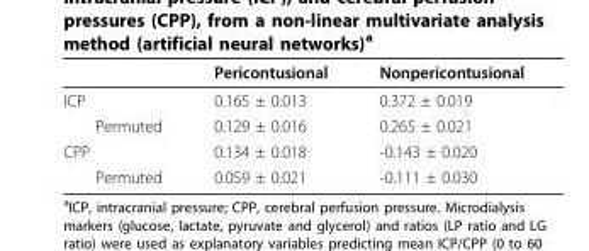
<table><thead><tr><td></td><td>Pericontusional</td><td>Nonpericontusional</td></tr></thead><tbody><tr><td>ICP</td><td>0.165 ± 0.013</td><td>0.372 ± 0.019</td></tr><tr><td>Permuted</td><td>0.129 ± 0.016</td><td>0.265 ± 0.021</td></tr><tr><td>CPP</td><td>0.134 ± 0.018</td><td>-0.143 ± 0.020</td></tr><tr><td>Permuted</td><td>0.059 ± 0.021</td><td>-0.111 ± 0.030</td></tr></tbody></table>